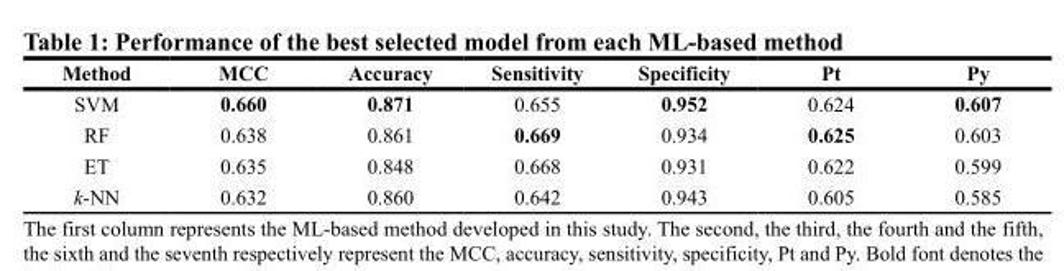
<table><thead><tr><td>Method</td><td>MCC</td><td>Accuracy</td><td>Sensitivity</td><td>Specificity</td><td>Pt</td><td>Py</td></tr></thead><tbody><tr><td>SVM</td><td>0.660</td><td>0.871</td><td>0.655</td><td>0.952</td><td>0.624</td><td>0.607</td></tr><tr><td>RF</td><td>0.638</td><td>0.861</td><td>0.669</td><td>0.934</td><td>0.625</td><td>0.603</td></tr><tr><td>ET</td><td>0.635</td><td>0.848</td><td>0.668</td><td>0.931</td><td>0.622</td><td>0.599</td></tr><tr><td>k-NN</td><td>0.632</td><td>0.860</td><td>0.642</td><td>0.943</td><td>0.605</td><td>0.585</td></tr></tbody></table>